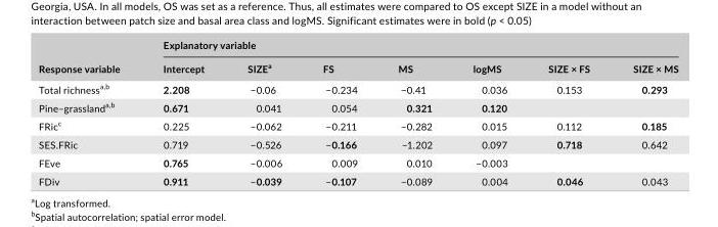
<table><thead><tr><td rowspan="2">Response variable</td><td colspan="7">Explanatory variable</td></tr><tr><td>Intercept</td><td>SIZE<sup>a</sup></td><td>FS</td><td>MS</td><td>logMS</td><td>SIZE × FS</td><td>SIZE × MS</td></tr></thead><tbody><tr><td>Total richness<sup>a</sup>,<sup>b</sup></td><td>2.208</td><td>−0.06</td><td>−0.234</td><td>−0.41</td><td>0.036</td><td>0.153</td><td>0.293</td></tr><tr><td>Pine–grassland<sup>a</sup>,<sup>b</sup></td><td>0.671</td><td>0.041</td><td>0.054</td><td>0.321</td><td>0.120</td><td></td><td></td></tr><tr><td>FRic<sup>c</sup></td><td>0.225</td><td>−0.062</td><td>−0.211</td><td>−0.282</td><td>0.015</td><td>0.112</td><td>0.185</td></tr><tr><td>SES.FRic</td><td>0.719</td><td>−0.526</td><td>−0.166</td><td>−1.202</td><td>0.097</td><td>0.718</td><td>0.642</td></tr><tr><td>FEve</td><td>0.765</td><td>−0.006</td><td>0.009</td><td>0.010</td><td>−0.003</td><td></td><td></td></tr><tr><td>FDiv</td><td>0.911</td><td>−0.039</td><td>−0.107</td><td>−0.089</td><td>0.004</td><td>0.046</td><td>0.043</td></tr></tbody></table>